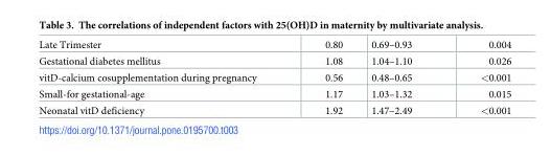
<table><tbody><tr><td>Late Trimester</td><td>0.80</td><td>0.69–0.93</td><td>0.004</td></tr><tr><td>Gestational diabetes mellitus</td><td>1.08</td><td>1.04–1.10</td><td>0.026</td></tr><tr><td>vitD-calcium cosupplementation during pregnancy</td><td>0.56</td><td>0.48–0.65</td><td>&lt;0.001</td></tr><tr><td>Small-for gestational-age</td><td>1.17</td><td>1.03–1.32</td><td>0.015</td></tr><tr><td>Neonatal vitD deficiency</td><td>1.92</td><td>1.47–2.49</td><td>&lt;0.001</td></tr></tbody></table>